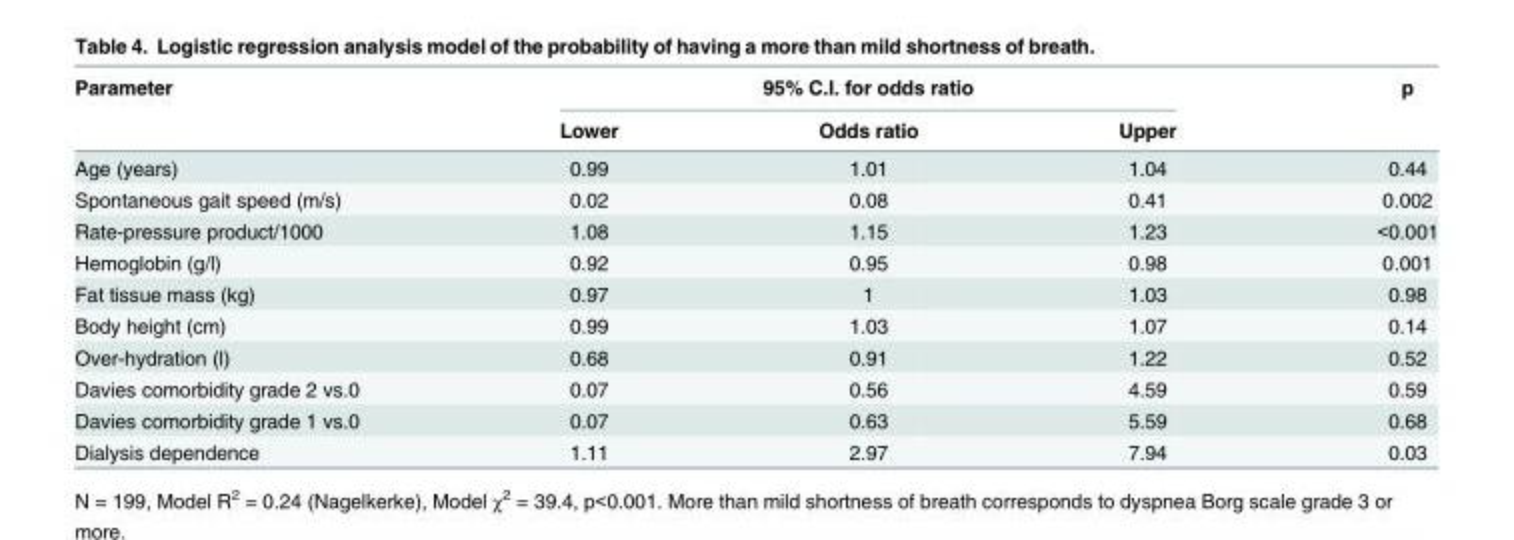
<table><thead><tr><td rowspan="2">Parameter</td><td colspan="3">95% C.I. for odds ratio</td><td rowspan="2">p</td></tr><tr><td>Lower</td><td>Odds ratio</td><td>Upper</td></tr></thead><tbody><tr><td>Age (years)</td><td>0.99</td><td>1.01</td><td>1.04</td><td>0.44</td></tr><tr><td>Spontaneous gait speed (m/s)</td><td>0.02</td><td>0.08</td><td>0.41</td><td>0.002</td></tr><tr><td>Rate-pressure product/1000</td><td>1.08</td><td>1.15</td><td>1.23</td><td>&lt;0.001</td></tr><tr><td>Hemoglobin (g/l)</td><td>0.92</td><td>0.95</td><td>0.98</td><td>0.001</td></tr><tr><td>Fat tissue mass (kg)</td><td>0.97</td><td>1</td><td>1.03</td><td>0.98</td></tr><tr><td>Body height (cm)</td><td>0.99</td><td>1.03</td><td>1.07</td><td>0.14</td></tr><tr><td>Over-hydration (l)</td><td>0.68</td><td>0.91</td><td>1.22</td><td>0.52</td></tr><tr><td>Davies comorbidity grade 2 vs.0</td><td>0.07</td><td>0.56</td><td>4.59</td><td>0.59</td></tr><tr><td>Davies comorbidity grade 1 vs.0</td><td>0.07</td><td>0.63</td><td>5.59</td><td>0.68</td></tr><tr><td>Dialysis dependence</td><td>1.11</td><td>2.97</td><td>7.94</td><td>0.03</td></tr></tbody></table>